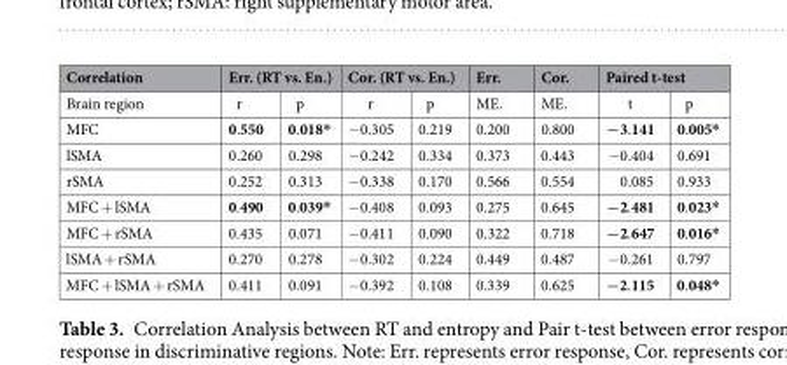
<table><thead><tr><td rowspan="2">Correlation Brain region</td><td colspan="2">Err. (RT vs. En.)</td><td colspan="2">Cor. (RT vs. En.)</td><td rowspan="2">Err. ME.</td><td rowspan="2">Cor. ME.</td><td colspan="2">Paired t-test</td></tr><tr><td>r</td><td>p</td><td>r</td><td>p</td><td>t</td><td>p</td></tr></thead><tbody><tr><td>MFC</td><td>0.550</td><td>0.018*</td><td>−0.305</td><td>0.219</td><td>0.200</td><td>0.800</td><td>−3.141</td><td>0.005*</td></tr><tr><td>lSMA</td><td>0.260</td><td>0.298</td><td>−0.242</td><td>0.334</td><td>0.373</td><td>0.443</td><td>−0.404</td><td>0.691</td></tr><tr><td>rSMA</td><td>0.252</td><td>0.313</td><td>−0.338</td><td>0.170</td><td>0.566</td><td>0.554</td><td>0.085</td><td>0.933</td></tr><tr><td>MFC + lSMA</td><td>0.490</td><td>0.039*</td><td>−0.408</td><td>0.093</td><td>0.275</td><td>0.645</td><td>−2.481</td><td>0.023*</td></tr><tr><td>MFC + rSMA</td><td>0.435</td><td>0.071</td><td>−0.411</td><td>0.090</td><td>0.322</td><td>0.718</td><td>−2.647</td><td>0.016*</td></tr><tr><td>lSMA + rSMA</td><td>0.270</td><td>0.278</td><td>−0.302</td><td>0.224</td><td>0.449</td><td>0.487</td><td>−0.261</td><td>0.797</td></tr><tr><td>MFC + lSMA + rSMA</td><td>0.411</td><td>0.091</td><td>−0.392</td><td>0.108</td><td>0.339</td><td>0.625</td><td>−2.115</td><td>0.048*</td></tr></tbody></table>